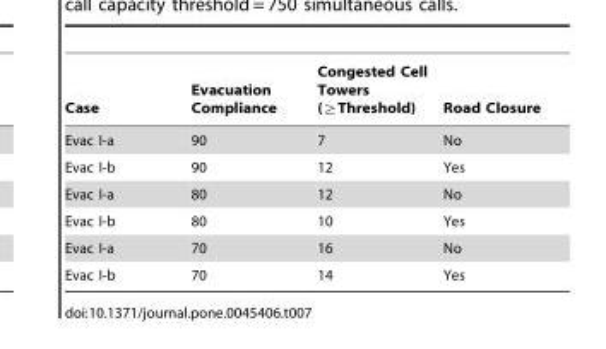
<table><thead><tr><td>Case</td><td>Evacuation Compliance</td><td>Congested Cell Towers (§Threshold)</td><td>Road Closure</td></tr></thead><tbody><tr><td>Evac I-a</td><td>90</td><td>7</td><td>No</td></tr><tr><td>Evac I-b</td><td>90</td><td>12</td><td>Yes</td></tr><tr><td>Evac I-a</td><td>80</td><td>12</td><td>No</td></tr><tr><td>Evac I-b</td><td>80</td><td>10</td><td>Yes</td></tr><tr><td>Evac I-a</td><td>70</td><td>16</td><td>No</td></tr><tr><td>Evac I-b</td><td>70</td><td>14</td><td>Yes</td></tr></tbody></table>